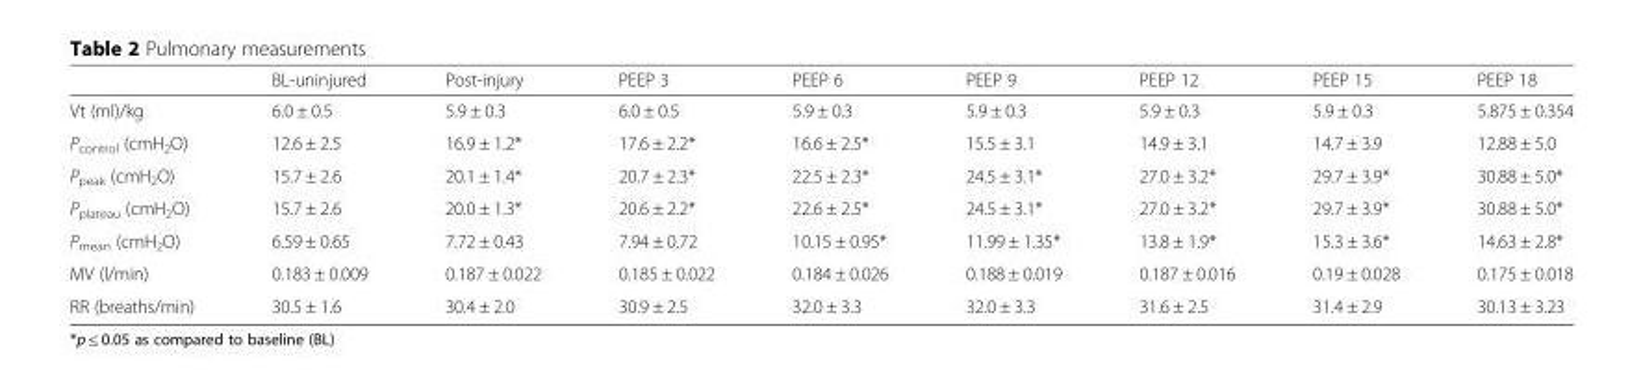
<table><thead><tr><td></td><td>BL-uninjured</td><td>Post-injury</td><td>PEEP 3</td><td>PEEP 6</td><td>PEEP 9</td><td>PEEP 12</td><td>PEEP 15</td><td>PEEP 18</td></tr></thead><tbody><tr><td>Vt (ml)/kg</td><td>6.0 ± 0.5</td><td>5.9 ± 0.3</td><td>6.0 ± 0.5</td><td>5.9 ± 0.3</td><td>5.9 ± 0.3</td><td>5.9 ± 0.3</td><td>5.9 ± 0.3</td><td>5.875 ± 0.354</td></tr><tr><td>P<sub>control</sub> (cmH<sub>2</sub>O)</td><td>12.6 ± 2.5</td><td>16.9 ± 1.2*</td><td>17.6 ± 2.2*</td><td>16.6 ± 2.5*</td><td>15.5 ± 3.1</td><td>14.9 ± 3.1</td><td>14.7 ± 3.9</td><td>12.88 ± 5.0</td></tr><tr><td>P<sub>peak</sub> (cmH<sub>2</sub>O)</td><td>15.7 ± 2.6</td><td>20.1 ± 1.4*</td><td>20.7 ± 2.3*</td><td>22.5 ± 2.3*</td><td>24.5 ± 3.1*</td><td>27.0 ± 3.2*</td><td>29.7 ± 3.9*</td><td>30.88 ± 5.0*</td></tr><tr><td>P<sub>plateau</sub> (cmH<sub>2</sub>O)</td><td>15.7 ± 2.6</td><td>20.0 ± 1.3*</td><td>20.6 ± 2.2*</td><td>22.6 ± 2.5*</td><td>24.5 ± 3.1*</td><td>27.0 ± 3.2*</td><td>29.7 ± 3.9*</td><td>30.88 ± 5.0*</td></tr><tr><td>P<sub>mean</sub> (cmH<sub>2</sub>O)</td><td>6.59 ± 0.65</td><td>7.72 ± 0.43</td><td>7.94 ± 0.72</td><td>10.15 ± 0.95*</td><td>11.99 ± 1.35*</td><td>13.8 ± 1.9*</td><td>15.3 ± 3.6*</td><td>14.63 ± 2.8*</td></tr><tr><td>MV (l/min)</td><td>0.183 ± 0.009</td><td>0.187 ± 0.022</td><td>0.185 ± 0.022</td><td>0.184 ± 0.026</td><td>0.188 ± 0.019</td><td>0.187 ± 0.016</td><td>0.19 ± 0.028</td><td>0.175 ± 0.018</td></tr><tr><td>RR (breaths/min)</td><td>30.5 ± 1.6</td><td>30.4 ± 2.0</td><td>30.9 ± 2.5</td><td>32.0 ± 3.3</td><td>32.0 ± 3.3</td><td>31.6 ± 2.5</td><td>31.4 ± 2.9</td><td>30.13 ± 3.23</td></tr></tbody></table>